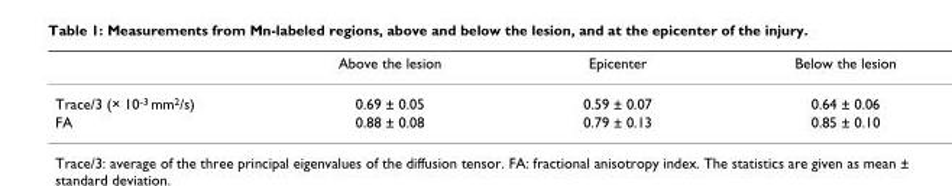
<table><thead><tr><td></td><td>Above the lesion</td><td>Epicenter</td><td>Below the lesion</td></tr></thead><tbody><tr><td>Trace/3 (× 10-3 mm2/s)</td><td>0.69 ± 0.05</td><td>0.59 ± 0.07</td><td>0.64 ± 0.06</td></tr><tr><td>FA</td><td>0.88 ± 0.08</td><td>0.79 ± 0.13</td><td>0.85 ± 0.10</td></tr></tbody></table>